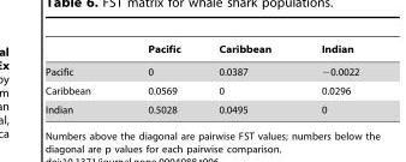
<table><thead><tr><td></td><td>Pacific</td><td>Caribbean</td><td>Indian</td></tr></thead><tbody><tr><td>Pacific</td><td>0</td><td>0.0387</td><td>−0.0022</td></tr><tr><td>Caribbean</td><td>0.0569</td><td>0</td><td>0.0296</td></tr><tr><td>Indian</td><td>0.5028</td><td>0.0495</td><td>0</td></tr></tbody></table>